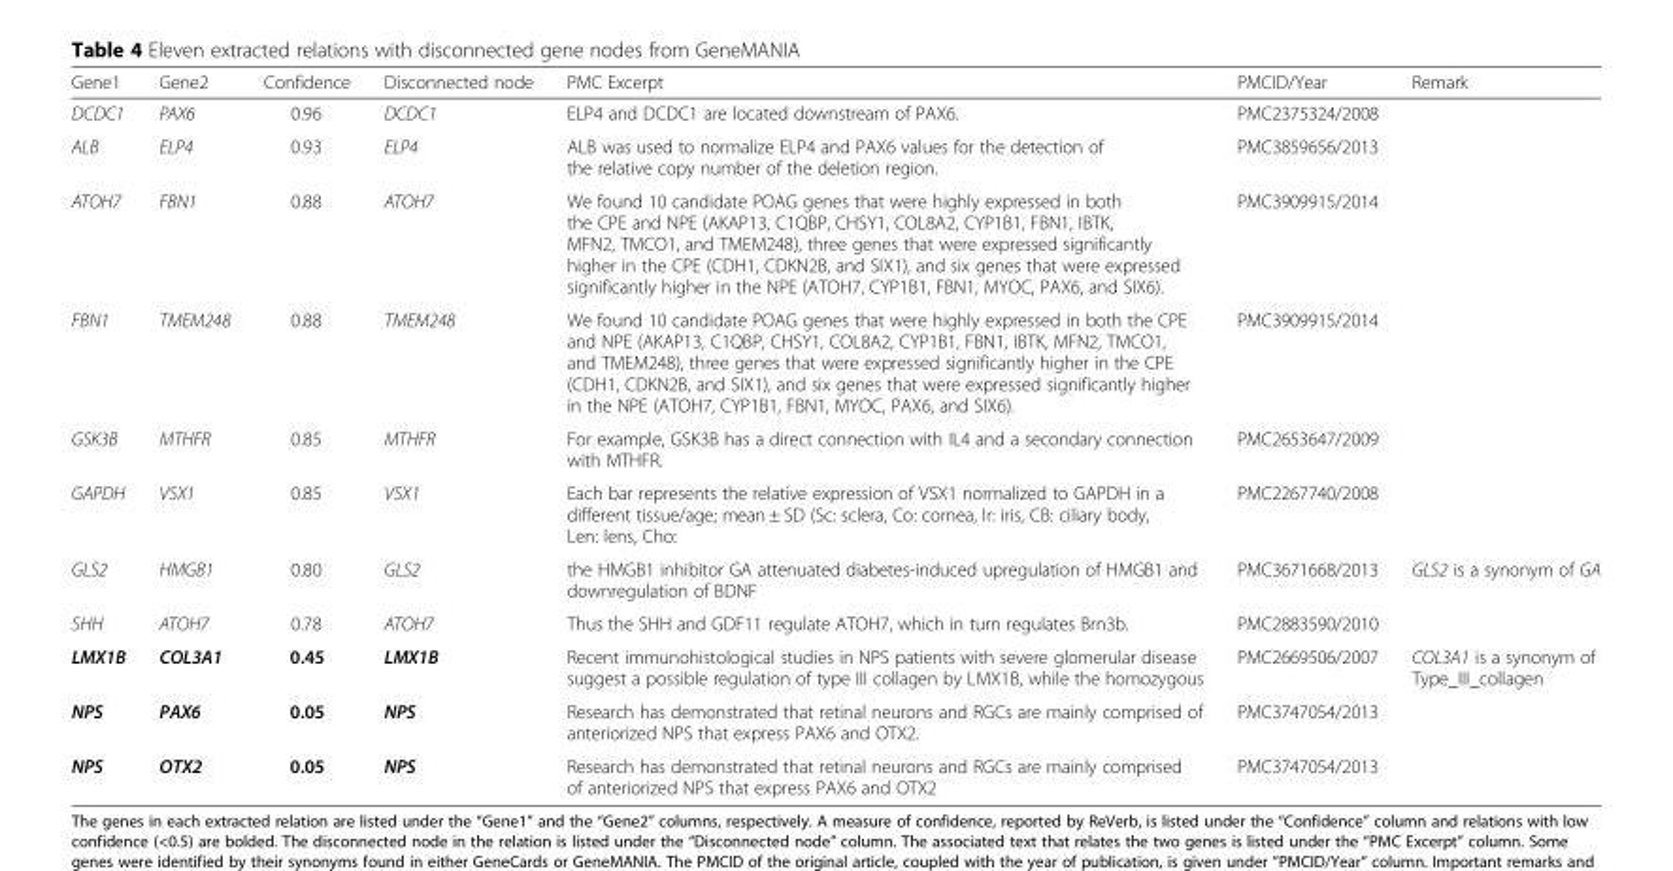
<table><thead><tr><td>Gene1</td><td>Gene2</td><td>Confidence</td><td>Disconnected node</td><td>PMC Excerpt</td><td>PMCID/Year</td><td>Remark</td></tr></thead><tbody><tr><td>DCDC1</td><td>PAX6</td><td>0.96</td><td>DCDC1</td><td>ELP4 and DCDC1 are located downstream of PAX6.</td><td>PMC2375324/2008</td><td></td></tr><tr><td>ALB</td><td>ELP4</td><td>0.93</td><td>ELP4</td><td>ALB was used to normalize ELP4 and PAX6 values for the detection of the relative copy number of the deletion region.</td><td>PMC3859656/2013</td><td></td></tr><tr><td>ATOH7</td><td>FBN1</td><td>0.88</td><td>ATOH7</td><td>We found 10 candidate POAG genes that were highly expressed in both the CPE and NPE (AKAP13, C1QBP, CHSY1, COL8A2, CYP1B1, FBN1, IBTK, MFN2, TMCO1, and TMEM248), three genes that were expressed significantly higher in the CPE (CDH1, CDKN2B, and SIX1), and six genes that were expressed significantly higher in the NPE (ATOH7, CYP1B1, FBN1, MYOC, PAX6, and SIX6).</td><td>PMC3909915/2014</td><td></td></tr><tr><td>FBN1</td><td>TMEM248</td><td>0.88</td><td>TMEM248</td><td>We found 10 candidate POAG genes that were highly expressed in both the CPE and NPE (AKAP13, C1QBP, CHSY1, COL8A2, CYP1B1, FBN1, IBTK, MFN2, TMCO1, and TMEM248), three genes that were expressed significantly higher in the CPE (CDH1, CDKN2B, and SIX1), and six genes that were expressed significantly higher in the NPE (ATOH7, CYP1B1, FBN1, MYOC, PAX6, and SIX6).</td><td>PMC3909915/2014</td><td></td></tr><tr><td>GSK3B</td><td>MTHFR</td><td>0.85</td><td>MTHFR</td><td>For example, GSK3B has a direct connection with IL4 and a secondary connection with MTHFR.</td><td>PMC2653647/2009</td><td></td></tr><tr><td>GAPDH</td><td>VSX1</td><td>0.85</td><td>VSX1</td><td>Each bar represents the relative expression of VSX1 normalized to GAPDH in a different tissue/age; mean ± SD (Sc: sclera, Co: cornea, Ir: iris, CB: ciliary body, Len: lens, Cho:</td><td>PMC2267740/2008</td><td></td></tr><tr><td>GLS2</td><td>HMGB1</td><td>0.80</td><td>GLS2</td><td>the HMGB1 inhibitor GA attenuated diabetes-induced upregulation of HMGB1 and downregulation of BDNF</td><td>PMC3671668/2013</td><td>GLS2 is a synonym of GA</td></tr><tr><td>SHH</td><td>ATOH7</td><td>0.78</td><td>ATOH7</td><td>Thus the SHH and GDF11 regulate ATOH7, which in turn regulates Brn3b.</td><td>PMC2883590/2010</td><td></td></tr><tr><td>LMX1B</td><td>COL3A1</td><td>0.45</td><td>LMX1B</td><td>Recent immunohistological studies in NPS patients with severe glomerular disease suggest a possible regulation of type III collagen by LMX1B, while the homozygous</td><td>PMC2669506/2007</td><td>COL3A1 is a synonym of Type_III_collagen</td></tr><tr><td>NPS</td><td>PAX6</td><td>0.05</td><td>NPS</td><td>Research has demonstrated that retinal neurons and RGCs are mainly comprised of anteriorized NPS that express PAX6 and OTX2.</td><td>PMC3747054/2013</td><td></td></tr><tr><td>NPS</td><td>OTX2</td><td>0.05</td><td>NPS</td><td>Research has demonstrated that retinal neurons and RGCs are mainly comprised of anteriorized NPS that express PAX6 and OTX2</td><td>PMC3747054/2013</td><td></td></tr></tbody></table>